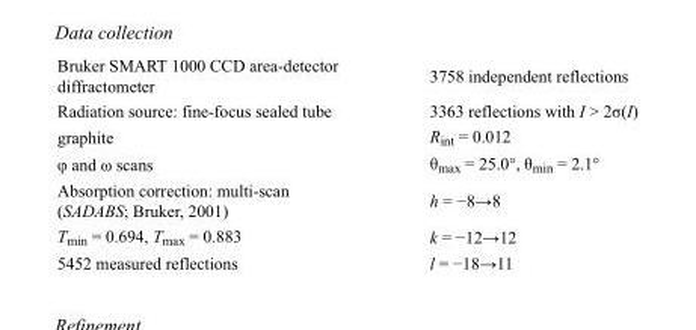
<table><tbody><tr><td>Bruker SMART 1000 CCD area-detector diffractometer</td><td>3758 independent reflections</td></tr><tr><td>Radiation source: fine-focus sealed tube</td><td>3363 reflections with I &gt; 2σ(I)</td></tr><tr><td>graphite</td><td>R<sub>int</sub> = 0.012</td></tr><tr><td>φ and ω scans</td><td>θ<sub>max</sub> = 25.0°, θ<sub>min</sub> = 2.1°</td></tr><tr><td>Absorption correction: multi-scan (SADABS; Bruker, 2001)</td><td>h = −8→8</td></tr><tr><td>T<sub>min</sub> = 0.694, T<sub>max</sub> = 0.883</td><td>k = −12→12</td></tr><tr><td>5452 measured reflections</td><td>l = −18→11</td></tr></tbody></table>